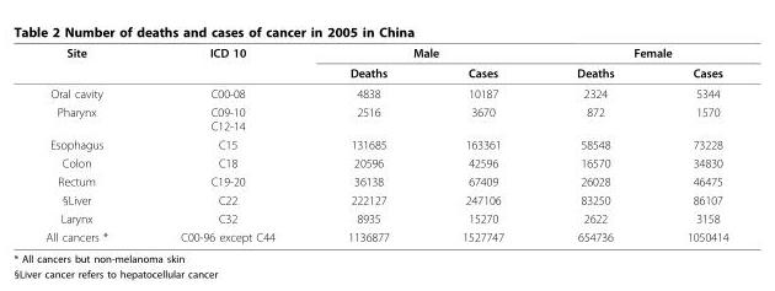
<table><thead><tr><td rowspan="2">Site</td><td rowspan="2">ICD 10</td><td colspan="2">Male</td><td colspan="2">Female</td></tr><tr><td>Deaths</td><td>Cases</td><td>Deaths</td><td>Cases</td></tr></thead><tbody><tr><td>Oral cavity</td><td>C00-08</td><td>4838</td><td>10187</td><td>2324</td><td>5344</td></tr><tr><td>Pharynx</td><td>C09-10 C12-14</td><td>2516</td><td>3670</td><td>872</td><td>1570</td></tr><tr><td>Esophagus</td><td>C15</td><td>131685</td><td>163361</td><td>58548</td><td>73228</td></tr><tr><td>Colon</td><td>C18</td><td>20596</td><td>42596</td><td>16570</td><td>34830</td></tr><tr><td>Rectum</td><td>C19-20</td><td>36138</td><td>67409</td><td>26028</td><td>46475</td></tr><tr><td>§Liver</td><td>C22</td><td>222127</td><td>247106</td><td>83250</td><td>86107</td></tr><tr><td>Larynx</td><td>C32</td><td>8935</td><td>15270</td><td>2622</td><td>3158</td></tr><tr><td>All cancers *</td><td>C00-96 except C44</td><td>1136877</td><td>1527747</td><td>654736</td><td>1050414</td></tr></tbody></table>